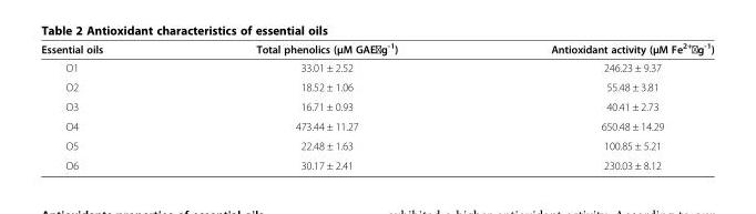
<table><thead><tr><td>Essential oils</td><td>Total phenolics (μM GAE∙g<sup>-1</sup>)</td><td>Antioxidant activity (μM Fe<sup>2+</sup>∙g<sup>-1</sup>)</td></tr></thead><tbody><tr><td>O1</td><td>33.01 ± 2.52</td><td>246.23 ± 9.37</td></tr><tr><td>O2</td><td>18.52 ± 1.06</td><td>55.48 ± 3.81</td></tr><tr><td>O3</td><td>16.71 ± 0.93</td><td>40.41 ± 2.73</td></tr><tr><td>O4</td><td>473.44 ± 11.27</td><td>650.48 ± 14.29</td></tr><tr><td>O5</td><td>22.48 ± 1.63</td><td>100.85 ± 5.21</td></tr><tr><td>O6</td><td>30.17 ± 2.41</td><td>230.03 ± 8.12</td></tr></tbody></table>